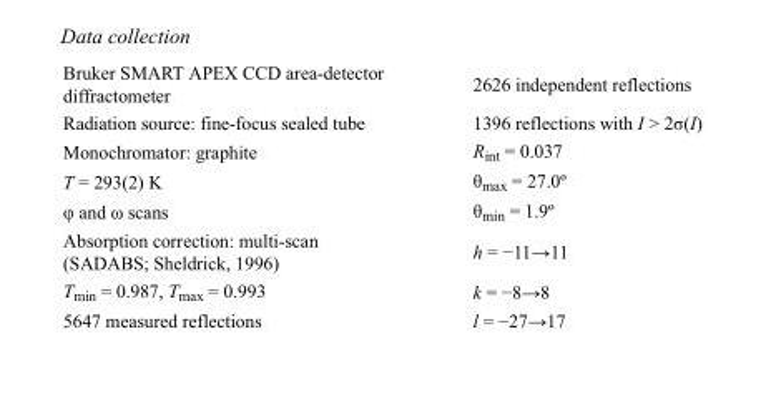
<table><tbody><tr><td>Bruker SMART APEX CCD area-detector diffractometer</td><td>2626 independent reflections</td></tr><tr><td>Radiation source: fine-focus sealed tube</td><td>1396 reflections with I &gt; 2σ(I)</td></tr><tr><td>Monochromator: graphite</td><td>R<sub>int</sub> = 0.037</td></tr><tr><td>T = 293(2) K</td><td>θ<sub>max</sub> = 27.0º</td></tr><tr><td>φ and ω scans</td><td>θ<sub>min</sub> = 1.9º</td></tr><tr><td>Absorption correction: multi-scan (SADABS; Sheldrick, 1996)</td><td>h = −11→11</td></tr><tr><td>T<sub>min</sub> = 0.987, T<sub>max</sub> = 0.993</td><td>k = −8→8</td></tr><tr><td>5647 measured reflections</td><td>l = −27→17</td></tr></tbody></table>